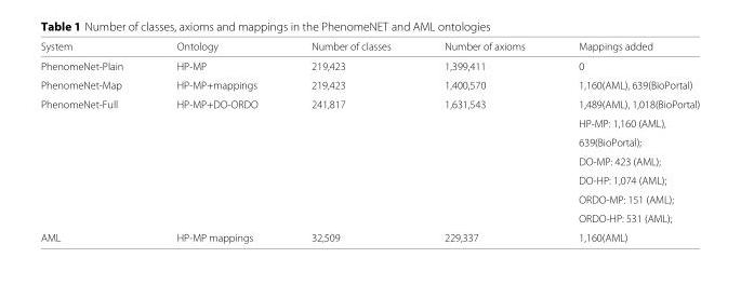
<table><thead><tr><td>System</td><td>Ontology</td><td>Number of classes</td><td>Number of axioms</td><td>Mappings added</td></tr></thead><tbody><tr><td>PhenomeNet-Plain</td><td>HP-MP</td><td>219,423</td><td>1,399,411</td><td>0</td></tr><tr><td>PhenomeNet-Map</td><td>HP-MP+mappings</td><td>219,423</td><td>1,400,570</td><td>1,160(AML), 639(BioPortal)</td></tr><tr><td rowspan="7">PhenomeNet-Full</td><td>HP-MP+DO-ORDO</td><td>241,817</td><td>1,631,543</td><td>1,489(AML), 1,018(BioPortal)</td></tr><tr><td></td><td></td><td></td><td>HP-MP: 1,160 (AML),</td></tr><tr><td></td><td></td><td></td><td>639(BioPortal);</td></tr><tr><td></td><td></td><td></td><td>DO-MP: 423 (AML);</td></tr><tr><td></td><td></td><td></td><td>DO-HP: 1,074 (AML);</td></tr><tr><td></td><td></td><td></td><td>ORDO-MP: 151 (AML);</td></tr><tr><td></td><td></td><td></td><td>ORDO-HP: 531 (AML);</td></tr><tr><td>AML</td><td>HP-MP mappings</td><td>32,509</td><td>229,337</td><td>1,160(AML)</td></tr></tbody></table>